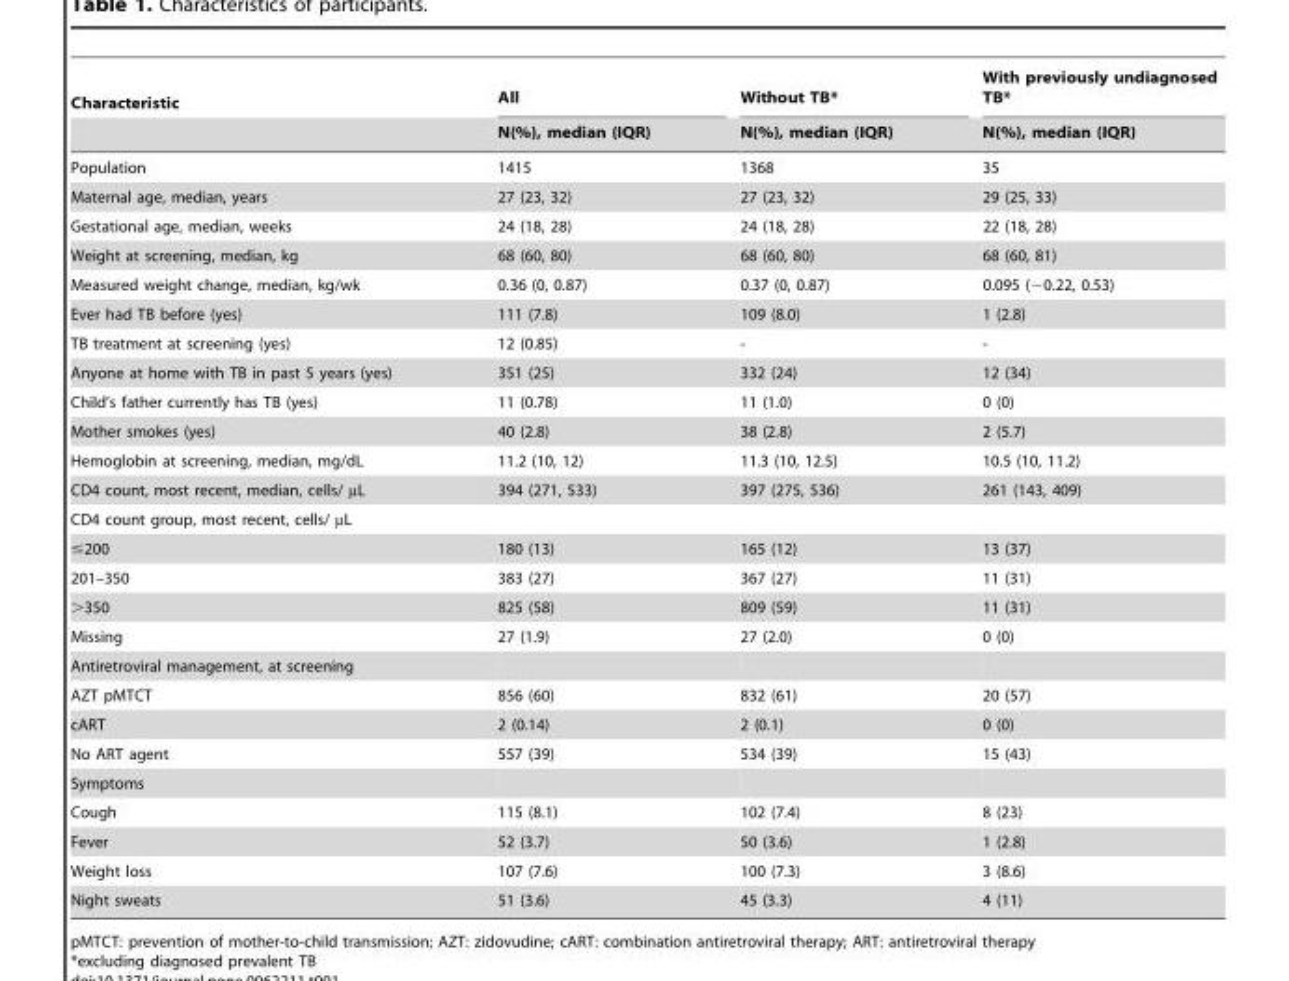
<table><thead><tr><td rowspan="2">Characteristic</td><td rowspan="2">All N(%), median (IQR)</td><td rowspan="2">Without TB* N(%), median (IQR)</td><td rowspan="2">With previously undiagnosed TB* N(%), median (IQR)</td></tr><tr></tr></thead><tbody><tr><td>Population</td><td>1415</td><td>1368</td><td>35</td></tr><tr><td>Maternal age, median, years</td><td>27 (23, 32)</td><td>27 (23, 32)</td><td>29 (25, 33)</td></tr><tr><td>Gestational age, median, weeks</td><td>24 (18, 28)</td><td>24 (18, 28)</td><td>22 (18, 28)</td></tr><tr><td>Weight at screening, median, kg</td><td>68 (60, 80)</td><td>68 (60, 80)</td><td>68 (60, 81)</td></tr><tr><td>Measured weight change, median, kg/wk</td><td>0.36 (0, 0.87)</td><td>0.37 (0, 0.87)</td><td>0.095 (−0.22, 0.53)</td></tr><tr><td>Ever had TB before (yes)</td><td>111 (7.8)</td><td>109 (8.0)</td><td>1 (2.8)</td></tr><tr><td>TB treatment at screening (yes)</td><td>12 (0.85)</td><td>-</td><td>-</td></tr><tr><td>Anyone at home with TB in past 5 years (yes)</td><td>351 (25)</td><td>332 (24)</td><td>12 (34)</td></tr><tr><td>Child’s father currently has TB (yes)</td><td>11 (0.78)</td><td>11 (1.0)</td><td>0 (0)</td></tr><tr><td>Mother smokes (yes)</td><td>40 (2.8)</td><td>38 (2.8)</td><td>2 (5.7)</td></tr><tr><td>Hemoglobin at screening, median, mg/dL</td><td>11.2 (10, 12)</td><td>11.3 (10, 12.5)</td><td>10.5 (10, 11.2)</td></tr><tr><td>CD4 count, most recent, median, cells/ µL</td><td>394 (271, 533)</td><td>397 (275, 536)</td><td>261 (143, 409)</td></tr><tr><td colspan="4">CD4 count group, most recent, cells/ µL</td></tr><tr><td>≤200</td><td>180 (13)</td><td>165 (12)</td><td>13 (37)</td></tr><tr><td>201–350</td><td>383 (27)</td><td>367 (27)</td><td>11 (31)</td></tr><tr><td>&gt;350</td><td>825 (58)</td><td>809 (59)</td><td>11 (31)</td></tr><tr><td>Missing</td><td>27 (1.9)</td><td>27 (2.0)</td><td>0 (0)</td></tr><tr><td colspan="4">Antiretroviral management, at screening</td></tr><tr><td>AZT pMTCT</td><td>856 (60)</td><td>832 (61)</td><td>20 (57)</td></tr><tr><td>cART</td><td>2 (0.14)</td><td>2 (0.1)</td><td>0 (0)</td></tr><tr><td>No ART agent</td><td>557 (39)</td><td>534 (39)</td><td>15 (43)</td></tr><tr><td colspan="4">Symptoms</td></tr><tr><td>Cough</td><td>115 (8.1)</td><td>102 (7.4)</td><td>8 (23)</td></tr><tr><td>Fever</td><td>52 (3.7)</td><td>50 (3.6)</td><td>1 (2.8)</td></tr><tr><td>Weight loss</td><td>107 (7.6)</td><td>100 (7.3)</td><td>3 (8.6)</td></tr><tr><td>Night sweats</td><td>51 (3.6)</td><td>45 (3.3)</td><td>4 (11)</td></tr></tbody></table>